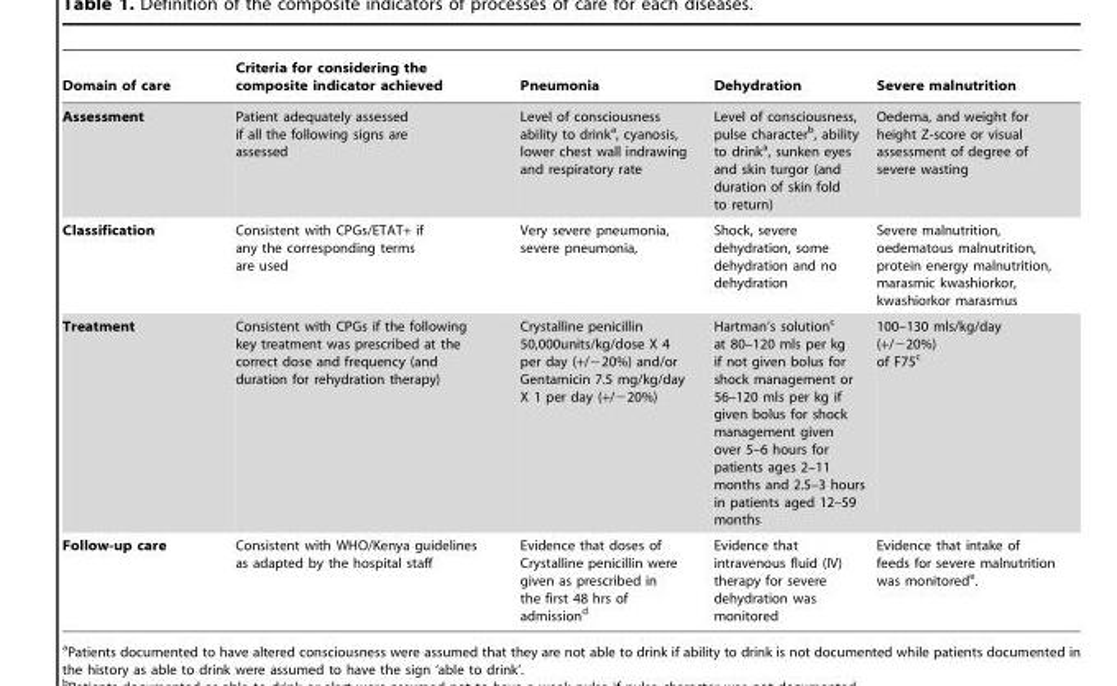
<table><thead><tr><td>Domain of care</td><td>Criteria for considering the composite indicator achieved</td><td>Pneumonia</td><td>Dehydration</td><td>Severe malnutrition</td></tr></thead><tbody><tr><td>Assessment</td><td>Patient adequately assessed if all the following signs are assessed</td><td>Level of consciousness ability to drink<sup>a</sup>, cyanosis, lower chest wall indrawing and respiratory rate</td><td>Level of consciousness, pulse character<sup>b</sup>, ability to drink<sup>a</sup>, sunken eyes and skin turgor (and duration of skin fold to return)</td><td>Oedema, and weight for height Z-score or visual assessment of degree of severe wasting</td></tr><tr><td>Classification</td><td>Consistent with CPGs/ETAT+ if any the corresponding terms are used</td><td>Very severe pneumonia, severe pneumonia,</td><td>Shock, severe dehydration, some dehydration and no dehydration</td><td>Severe malnutrition, oedematous malnutrition, protein energy malnutrition, marasmic kwashiorkor, kwashiorkor marasmus</td></tr><tr><td>Treatment</td><td>Consistent with CPGs if the following key treatment was prescribed at the correct dose and frequency (and duration for rehydration therapy)</td><td>Crystalline penicillin 50,000units/kg/dose X 4 per day (+/−20%) and/or Gentamicin 7.5 mg/kg/day X 1 per day (+/−20%)</td><td>Hartman’s solution<sup>c</sup> at 80–120 mls per kg if not given bolus for shock management or 56–120 mls per kg if given bolus for shock management given over 5–6 hours for patients ages 2–11 months and 2.5–3 hours in patients aged 12–59 months</td><td>100–130 mls/kg/day (+/−20%) of F75<sup>c</sup></td></tr><tr><td>Follow-up care</td><td>Consistent with WHO/Kenya guidelines as adapted by the hospital staff</td><td>Evidence that doses of Crystalline penicillin were given as prescribed in the first 48 hrs of admission<sup>d</sup></td><td>Evidence that intravenous fluid (IV) therapy for severe dehydration was monitored</td><td>Evidence that intake of feeds for severe malnutrition was monitored<sup>e</sup>.</td></tr></tbody></table>